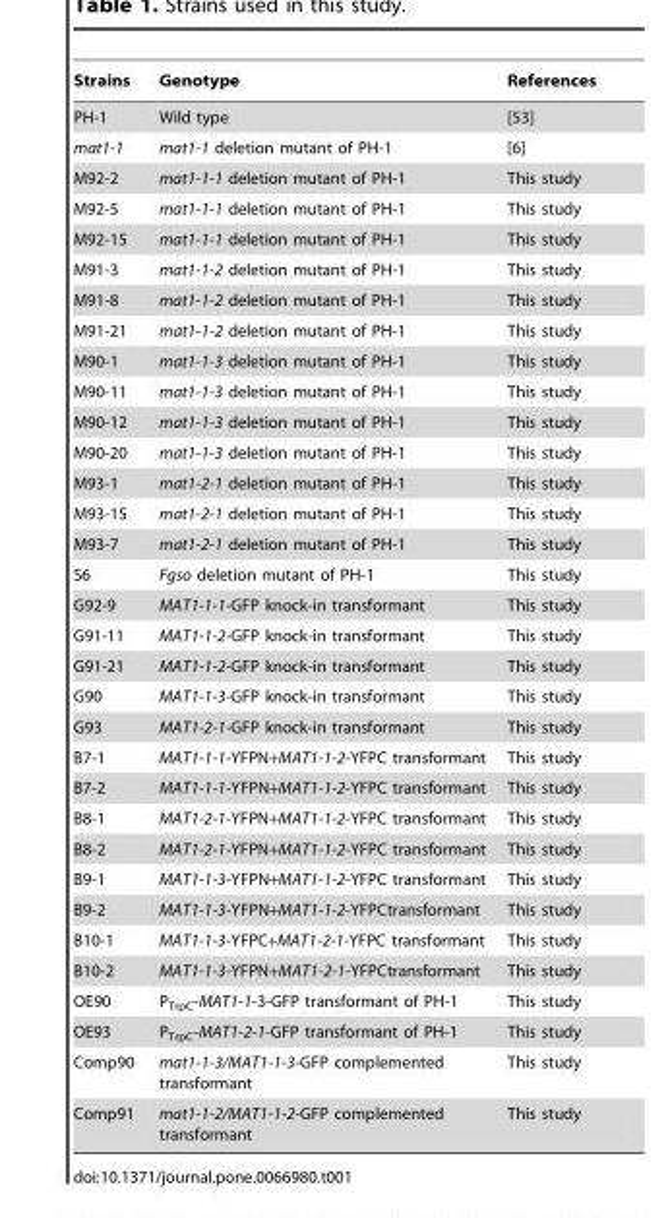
<table><thead><tr><td>Strains</td><td>Genotype</td><td>References</td></tr></thead><tbody><tr><td>PH-1</td><td>Wild type</td><td>[53]</td></tr><tr><td>mat1-1</td><td>mat1-1 deletion mutant of PH-1</td><td>[6]</td></tr><tr><td>M92-2</td><td>mat1-1-1 deletion mutant of PH-1</td><td>This study</td></tr><tr><td>M92-5</td><td>mat1-1-1 deletion mutant of PH-1</td><td>This study</td></tr><tr><td>M92-15</td><td>mat1-1-1 deletion mutant of PH-1</td><td>This study</td></tr><tr><td>M91-3</td><td>mat1-1-2 deletion mutant of PH-1</td><td>This study</td></tr><tr><td>M91-8</td><td>mat1-1-2 deletion mutant of PH-1</td><td>This study</td></tr><tr><td>M91-21</td><td>mat1-1-2 deletion mutant of PH-1</td><td>This study</td></tr><tr><td>M90-1</td><td>mat1-1-3 deletion mutant of PH-1</td><td>This study</td></tr><tr><td>M90-11</td><td>mat1-1-3 deletion mutant of PH-1</td><td>This study</td></tr><tr><td>M90-12</td><td>mat1-1-3 deletion mutant of PH-1</td><td>This study</td></tr><tr><td>M90-20</td><td>mat1-1-3 deletion mutant of PH-1</td><td>This study</td></tr><tr><td>M93-1</td><td>mat1-2-1 deletion mutant of PH-1</td><td>This study</td></tr><tr><td>M93-15</td><td>mat1-2-1 deletion mutant of PH-1</td><td>This study</td></tr><tr><td>M93-7</td><td>mat1-2-1 deletion mutant of PH-1</td><td>This study</td></tr><tr><td>S6</td><td>Fgso deletion mutant of PH-1</td><td>This study</td></tr><tr><td>G92-9</td><td>MAT1-1-1-GFP knock-in transformant</td><td>This study</td></tr><tr><td>G91-11</td><td>MAT1-1-2-GFP knock-in transformant</td><td>This study</td></tr><tr><td>G91-21</td><td>MAT1-1-2-GFP knock-in transformant</td><td>This study</td></tr><tr><td>G90</td><td>MAT1-1-3-GFP knock-in transformant</td><td>This study</td></tr><tr><td>G93</td><td>MAT1-2-1-GFP knock-in transformant</td><td>This study</td></tr><tr><td>B7-1</td><td>MAT1-1-1-YFPN+MAT1-1-2-YFPC transformant</td><td>This study</td></tr><tr><td>B7-2</td><td>MAT1-1-1-YFPN+MAT1-1-2-YFPC transformant</td><td>This study</td></tr><tr><td>B8-1</td><td>MAT1-2-1-YFPN+MAT1-1-2-YFPC transformant</td><td>This study</td></tr><tr><td>B8-2</td><td>MAT1-2-1-YFPN+MAT1-1-2-YFPC transformant</td><td>This study</td></tr><tr><td>B9-1</td><td>MAT1-1-3-YFPN+MAT1-1-2-YFPC transformant</td><td>This study</td></tr><tr><td>B9-2</td><td>MAT1-1-3-YFPN+MAT1-1-2-YFPCtransformant</td><td>This study</td></tr><tr><td>B10-1</td><td>MAT1-1-3-YFPC+MAT1-2-1-YFPC transformant</td><td>This study</td></tr><tr><td>B10-2</td><td>MAT1-1-3-YFPN+MAT1-2-1-YFPCtransformant</td><td>This study</td></tr><tr><td>OE90</td><td>P<sub>TrpC</sub>-MAT1-1-3-GFP transformant of PH-1</td><td>This study</td></tr><tr><td>OE93</td><td>P<sub>TrpC</sub>-MAT1-2-1-GFP transformant of PH-1</td><td>This study</td></tr><tr><td>Comp90</td><td>mat1-1-3/MAT1-1-3-GFP complemented transformant</td><td>This study</td></tr><tr><td>Comp91</td><td>mat1-1-2/MAT1-1-2-GFP complemented transformant</td><td>This study</td></tr></tbody></table>